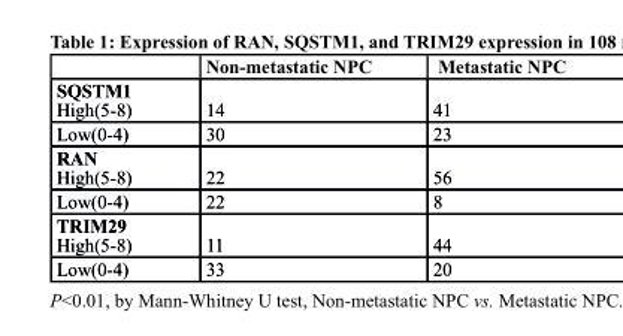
<table><thead><tr><td></td><td>Non-metastatic NPC</td><td>Metastatic NPC</td></tr></thead><tbody><tr><td>SQSTM1 High(5-8)</td><td>14</td><td>41</td></tr><tr><td>Low(0-4)</td><td>30</td><td>23</td></tr><tr><td>RAN High(5-8)</td><td>22</td><td>56</td></tr><tr><td>Low(0-4)</td><td>22</td><td>8</td></tr><tr><td>TRIM29 High(5-8)</td><td>11</td><td>44</td></tr><tr><td>Low(0-4)</td><td>33</td><td>20</td></tr></tbody></table>